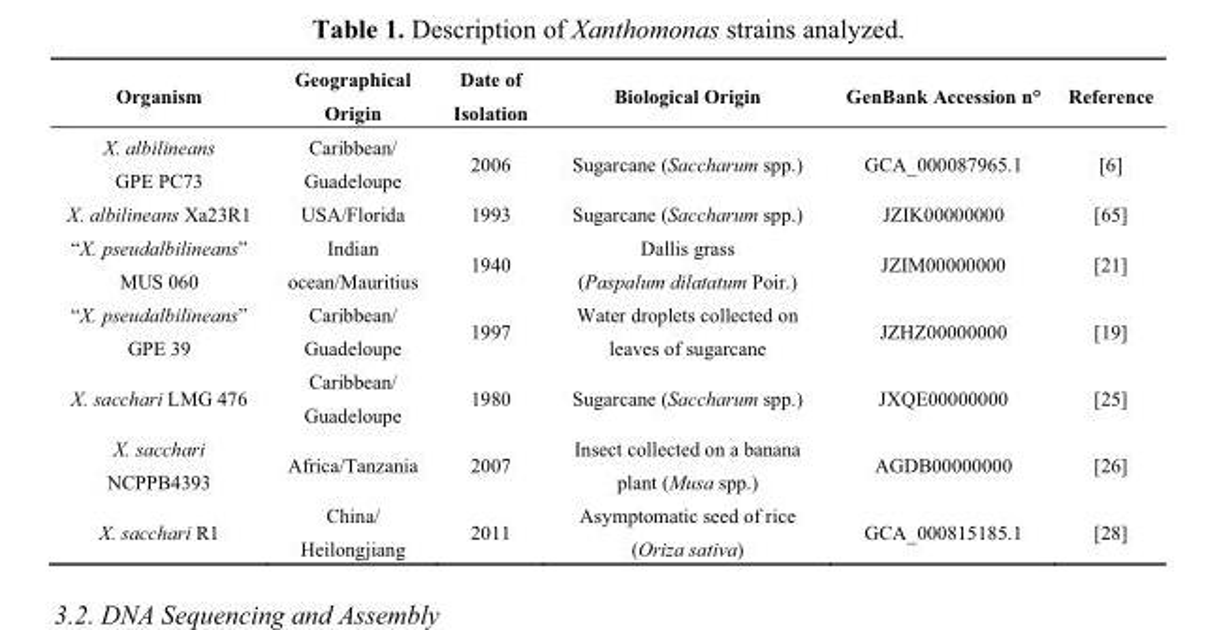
<table><thead><tr><td>Organism</td><td>Geographical Origin</td><td>Date of Isolation</td><td>Biological Origin</td><td>GenBank Accession n°</td><td>Reference</td></tr></thead><tbody><tr><td>X. albilineans GPE PC73</td><td>Caribbean/ Guadeloupe</td><td>2006</td><td>Sugarcane (Saccharum spp.)</td><td>GCA_000087965.1</td><td>[6]</td></tr><tr><td>X. albilineans Xa23R1</td><td>USA/Florida</td><td>1993</td><td>Sugarcane (Saccharum spp.)</td><td>JZIK00000000</td><td>[65]</td></tr><tr><td>“X. pseudalbilineans” MUS 060</td><td>Indian ocean/Mauritius</td><td>1940</td><td>Dallis grass (Paspalum dilatatum Poir.)</td><td>JZIM00000000</td><td>[21]</td></tr><tr><td>“X. pseudalbilineans” GPE 39</td><td>Caribbean/ Guadeloupe</td><td>1997</td><td>Water droplets collected on leaves of sugarcane</td><td>JZHZ00000000</td><td>[19]</td></tr><tr><td>X. sacchari LMG 476</td><td>Caribbean/ Guadeloupe</td><td>1980</td><td>Sugarcane (Saccharum spp.)</td><td>JXQE00000000</td><td>[25]</td></tr><tr><td>X. sacchari NCPPB4393</td><td>Africa/Tanzania</td><td>2007</td><td>Insect collected on a banana plant (Musa spp.)</td><td>AGDB00000000</td><td>[26]</td></tr><tr><td>X. sacchari R1</td><td>China/ Heilongjiang</td><td>2011</td><td>Asymptomatic seed of rice (Oriza sativa)</td><td>GCA_000815185.1</td><td>[28]</td></tr></tbody></table>